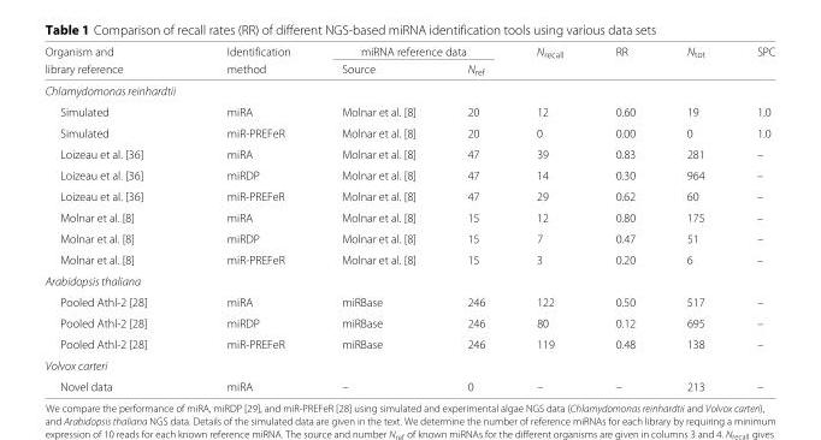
<table><thead><tr><td rowspan="2">Organism and library reference</td><td rowspan="2">Identification method</td><td colspan="2">miRNA reference data</td><td rowspan="2">N<sub>recall</sub></td><td rowspan="2">RR</td><td rowspan="2">N<sub>tot</sub></td><td rowspan="2">SPC</td></tr><tr><td>Source</td><td>N<sub>ref</sub></td></tr></thead><tbody><tr><td colspan="8">Chlamydomonas reinhardtii</td></tr><tr><td>Simulated</td><td>miRA</td><td>Molnar et al. [8]</td><td>20</td><td>12</td><td>0.60</td><td>19</td><td>1.0</td></tr><tr><td>Simulated</td><td>miR-PREFeR</td><td>Molnar et al. [8]</td><td>20</td><td>0</td><td>0.00</td><td>0</td><td>1.0</td></tr><tr><td>Loizeau et al. [36]</td><td>miRA</td><td>Molnar et al. [8]</td><td>47</td><td>39</td><td>0.83</td><td>281</td><td>–</td></tr><tr><td>Loizeau et al. [36]</td><td>miRDP</td><td>Molnar et al. [8]</td><td>47</td><td>14</td><td>0.30</td><td>964</td><td>–</td></tr><tr><td>Loizeau et al. [36]</td><td>miR-PREFeR</td><td>Molnar et al. [8]</td><td>47</td><td>29</td><td>0.62</td><td>60</td><td>–</td></tr><tr><td>Molnar et al. [8]</td><td>miRA</td><td>Molnar et al. [8]</td><td>15</td><td>12</td><td>0.80</td><td>175</td><td>–</td></tr><tr><td>Molnar et al. [8]</td><td>miRDP</td><td>Molnar et al. [8]</td><td>15</td><td>7</td><td>0.47</td><td>51</td><td>–</td></tr><tr><td>Molnar et al. [8]</td><td>miR-PREFeR</td><td>Molnar et al. [8]</td><td>15</td><td>3</td><td>0.20</td><td>6</td><td>–</td></tr><tr><td colspan="8">Arabidopsis thaliana</td></tr><tr><td>Pooled Athl-2 [28]</td><td>miRA</td><td>miRBase</td><td>246</td><td>122</td><td>0.50</td><td>517</td><td>–</td></tr><tr><td>Pooled Athl-2 [28]</td><td>miRDP</td><td>miRBase</td><td>246</td><td>80</td><td>0.12</td><td>695</td><td>–</td></tr><tr><td>Pooled Athl-2 [28]</td><td>miR-PREFeR</td><td>miRBase</td><td>246</td><td>119</td><td>0.48</td><td>138</td><td>–</td></tr><tr><td colspan="8">Volvox carteri</td></tr><tr><td>Novel data</td><td>miRA</td><td>–</td><td>0</td><td>–</td><td>–</td><td>213</td><td>–</td></tr></tbody></table>